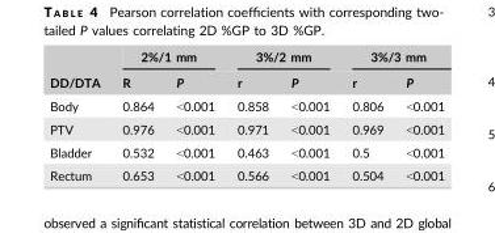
<table><thead><tr><td rowspan="2">DD/DTA</td><td colspan="2">2%/1 mm</td><td colspan="2">3%/2 mm</td><td colspan="2">3%/3 mm</td></tr><tr><td>R</td><td>P</td><td>r</td><td>P</td><td>r</td><td>P</td></tr></thead><tbody><tr><td>Body</td><td>0.864</td><td>&lt;0.001</td><td>0.858</td><td>&lt;0.001</td><td>0.806</td><td>&lt;0.001</td></tr><tr><td>PTV</td><td>0.976</td><td>&lt;0.001</td><td>0.971</td><td>&lt;0.001</td><td>0.969</td><td>&lt;0.001</td></tr><tr><td>Bladder</td><td>0.532</td><td>&lt;0.001</td><td>0.463</td><td>&lt;0.001</td><td>0.5</td><td>&lt;0.001</td></tr><tr><td>Rectum</td><td>0.653</td><td>&lt;0.001</td><td>0.566</td><td>&lt;0.001</td><td>0.504</td><td>&lt;0.001</td></tr></tbody></table>